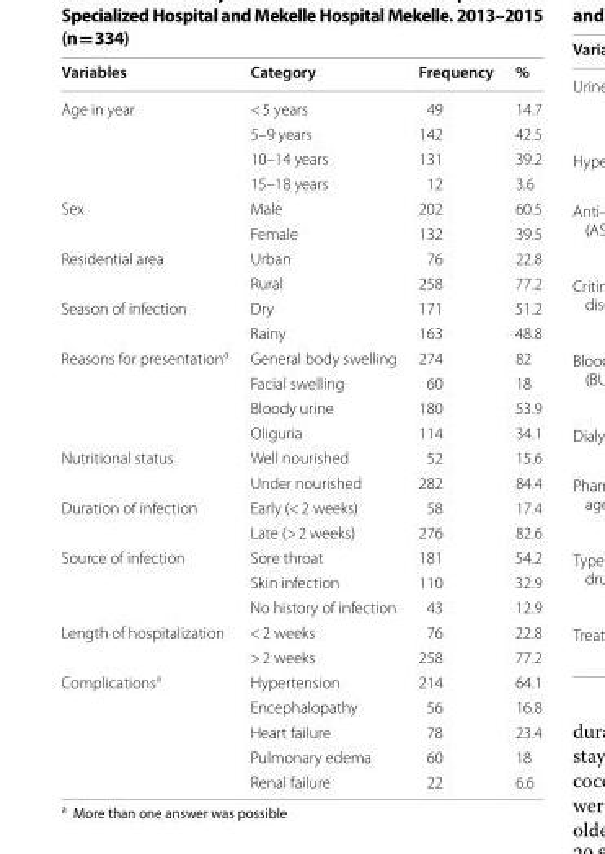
<table><thead><tr><td>Variables</td><td>Category</td><td>Frequency</td><td>%</td></tr></thead><tbody><tr><td rowspan="4">Age in year</td><td>&lt; 5 years</td><td>49</td><td>14.7</td></tr><tr><td>5–9 years</td><td>142</td><td>42.5</td></tr><tr><td>10–14 years</td><td>131</td><td>39.2</td></tr><tr><td>15–18 years</td><td>12</td><td>3.6</td></tr><tr><td rowspan="2">Sex</td><td>Male</td><td>202</td><td>60.5</td></tr><tr><td>Female</td><td>132</td><td>39.5</td></tr><tr><td rowspan="2">Residential area</td><td>Urban</td><td>76</td><td>22.8</td></tr><tr><td>Rural</td><td>258</td><td>77.2</td></tr><tr><td rowspan="2">Season of infection</td><td>Dry</td><td>171</td><td>51.2</td></tr><tr><td>Rainy</td><td>163</td><td>48.8</td></tr><tr><td rowspan="4">Reasons for presentation<sup>a</sup></td><td>General body swelling</td><td>274</td><td>82</td></tr><tr><td>Facial swelling</td><td>60</td><td>18</td></tr><tr><td>Bloody urine</td><td>180</td><td>53.9</td></tr><tr><td>Oliguria</td><td>114</td><td>34.1</td></tr><tr><td rowspan="2">Nutritional status</td><td>Well nourished</td><td>52</td><td>15.6</td></tr><tr><td>Under nourished</td><td>282</td><td>84.4</td></tr><tr><td rowspan="2">Duration of infection</td><td>Early (&lt; 2 weeks)</td><td>58</td><td>17.4</td></tr><tr><td>Late (&gt; 2 weeks)</td><td>276</td><td>82.6</td></tr><tr><td rowspan="3">Source of infection</td><td>Sore throat</td><td>181</td><td>54.2</td></tr><tr><td>Skin infection</td><td>110</td><td>32.9</td></tr><tr><td>No history of infection</td><td>43</td><td>12.9</td></tr><tr><td rowspan="2">Length of hospitalization</td><td>&lt; 2 weeks</td><td>76</td><td>22.8</td></tr><tr><td>&gt; 2 weeks</td><td>258</td><td>77.2</td></tr><tr><td rowspan="5">Complications<sup>a</sup></td><td>Hypertension</td><td>214</td><td>64.1</td></tr><tr><td>Encephalopathy</td><td>56</td><td>16.8</td></tr><tr><td>Heart failure</td><td>78</td><td>23.4</td></tr><tr><td>Pulmonary edema</td><td>60</td><td>18</td></tr><tr><td>Renal failure</td><td>22</td><td>6.6</td></tr></tbody></table>